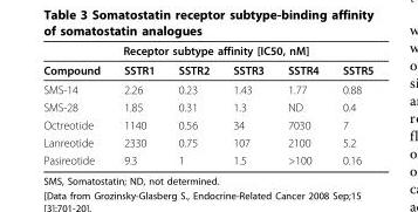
<table><thead><tr><td colspan="6">Receptor subtype affinity [IC50, nM]</td></tr><tr><td>Compound</td><td>SSTR1</td><td>SSTR2</td><td>SSTR3</td><td>SSTR4</td><td>SSTR5</td></tr></thead><tbody><tr><td>SMS-14</td><td>2.26</td><td>0.23</td><td>1.43</td><td>1.77</td><td>0.88</td></tr><tr><td>SMS-28</td><td>1.85</td><td>0.31</td><td>1.3</td><td>ND</td><td>0.4</td></tr><tr><td>Octreotide</td><td>1140</td><td>0.56</td><td>34</td><td>7030</td><td>7</td></tr><tr><td>Lanreotide</td><td>2330</td><td>0.75</td><td>107</td><td>2100</td><td>5.2</td></tr><tr><td>Pasireotide</td><td>9.3</td><td>1</td><td>1.5</td><td>&gt;100</td><td>0.16</td></tr></tbody></table>